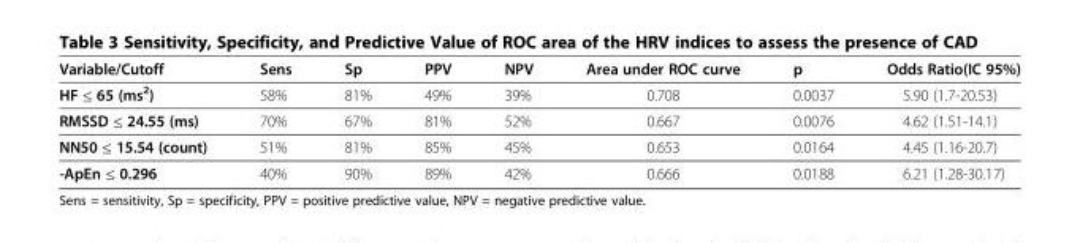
<table><thead><tr><td>Variable/Cutoff</td><td>Sens</td><td>Sp</td><td>PPV</td><td>NPV</td><td>Area under ROC curve</td><td>p</td><td>Odds Ratio(IC 95%)</td></tr></thead><tbody><tr><td>HF ≤ 65 (ms<sup>2</sup>)</td><td>58%</td><td>81%</td><td>49%</td><td>39%</td><td>0.708</td><td>0.0037</td><td>5.90 (1.7-20.53)</td></tr><tr><td>RMSSD ≤ 24.55 (ms)</td><td>70%</td><td>67%</td><td>81%</td><td>52%</td><td>0.667</td><td>0.0076</td><td>4.62 (1.51-14.1)</td></tr><tr><td>NN50 ≤ 15.54 (count)</td><td>51%</td><td>81%</td><td>85%</td><td>45%</td><td>0.653</td><td>0.0164</td><td>4.45 (1.16-20.7)</td></tr><tr><td>-ApEn ≤ 0.296</td><td>40%</td><td>90%</td><td>89%</td><td>42%</td><td>0.666</td><td>0.0188</td><td>6.21 (1.28-30.17)</td></tr></tbody></table>